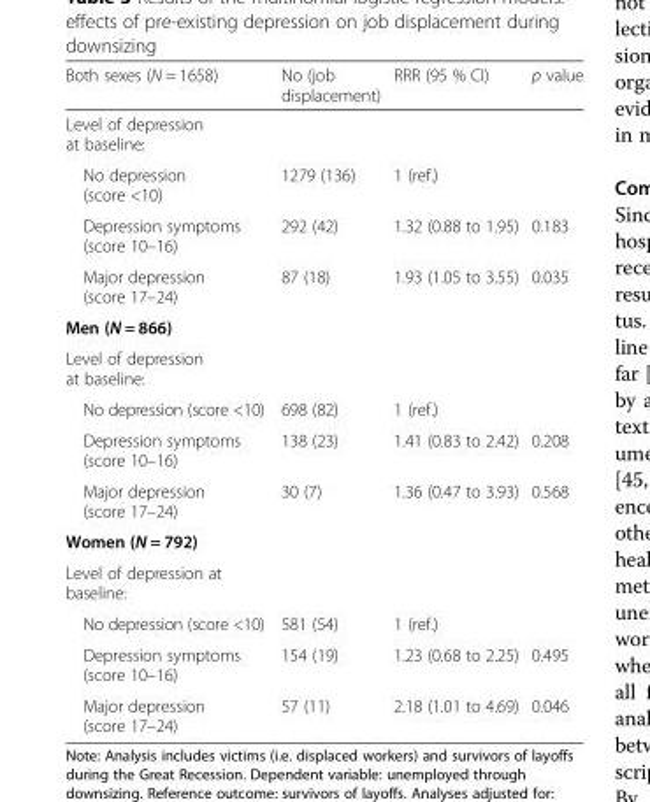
<table><thead><tr><td>Both sexes (N = 1658)</td><td>No (job displacement)</td><td>RRR (95 % CI)</td><td>p value</td></tr></thead><tbody><tr><td colspan="4">Level of depression at baseline:</td></tr><tr><td>No depression (score &lt;10)</td><td>1279 (136)</td><td>1 (ref.)</td><td></td></tr><tr><td>Depression symptoms (score 10–16)</td><td>292 (42)</td><td>1.32 (0.88 to 1.95)</td><td>0.183</td></tr><tr><td>Major depression (score 17–24)</td><td>87 (18)</td><td>1.93 (1.05 to 3.55)</td><td>0.035</td></tr><tr><td colspan="4">Men (N = 866)</td></tr><tr><td colspan="4">Level of depression at baseline:</td></tr><tr><td>No depression (score &lt;10)</td><td>698 (82)</td><td>1 (ref.)</td><td></td></tr><tr><td>Depression symptoms (score 10–16)</td><td>138 (23)</td><td>1.41 (0.83 to 2.42)</td><td>0.208</td></tr><tr><td>Major depression (score 17–24)</td><td>30 (7)</td><td>1.36 (0.47 to 3.93)</td><td>0.568</td></tr><tr><td colspan="4">Women (N = 792)</td></tr><tr><td colspan="4">Level of depression at baseline:</td></tr><tr><td>No depression (score &lt;10)</td><td>581 (54)</td><td>1 (ref.)</td><td></td></tr><tr><td>Depression symptoms (score 10–16)</td><td>154 (19)</td><td>1.23 (0.68 to 2.25)</td><td>0.495</td></tr><tr><td>Major depression (score 17–24)</td><td>57 (11)</td><td>2.18 (1.01 to 4.69)</td><td>0.046</td></tr></tbody></table>